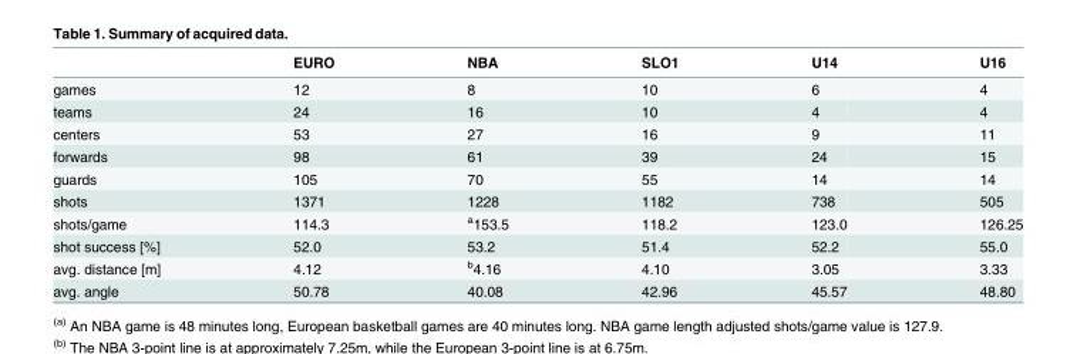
<table><thead><tr><td></td><td>EURO</td><td>NBA</td><td>SLO1</td><td>U14</td><td>U16</td></tr></thead><tbody><tr><td>games</td><td>12</td><td>8</td><td>10</td><td>6</td><td>4</td></tr><tr><td>teams</td><td>24</td><td>16</td><td>10</td><td>4</td><td>4</td></tr><tr><td>centers</td><td>53</td><td>27</td><td>16</td><td>9</td><td>11</td></tr><tr><td>forwards</td><td>98</td><td>61</td><td>39</td><td>24</td><td>15</td></tr><tr><td>guards</td><td>105</td><td>70</td><td>55</td><td>14</td><td>14</td></tr><tr><td>shots</td><td>1371</td><td>1228</td><td>1182</td><td>738</td><td>505</td></tr><tr><td>shots/game</td><td>114.3</td><td><sup>a</sup>153.5</td><td>118.2</td><td>123.0</td><td>126.25</td></tr><tr><td>shot success [%]</td><td>52.0</td><td>53.2</td><td>51.4</td><td>52.2</td><td>55.0</td></tr><tr><td>avg. distance [m]</td><td>4.12</td><td><sup>b</sup>4.16</td><td>4.10</td><td>3.05</td><td>3.33</td></tr><tr><td>avg. angle</td><td>50.78</td><td>40.08</td><td>42.96</td><td>45.57</td><td>48.80</td></tr></tbody></table>